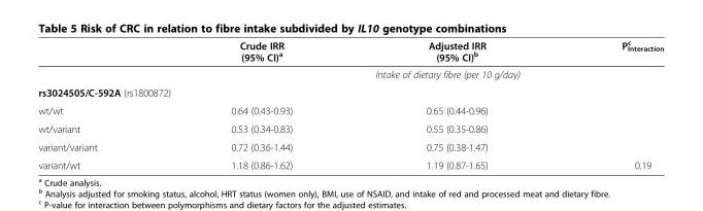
<table><thead><tr><td></td><td>Crude IRR (95% CI)<sup>a</sup></td><td>Adjusted IRR (95% CI)<sup>b</sup></td><td>P<sub>Interaction</sub> <sup>c</sup></td></tr></thead><tbody><tr><td></td><td colspan="3">Intake of dietary fibre (per 10 g/day)</td></tr><tr><td colspan="4">rs3024505/C-592A (rs1800872)</td></tr><tr><td>wt/wt</td><td>0.64 (0.43-0.93)</td><td>0.65 (0.44-0.96)</td><td></td></tr><tr><td>wt/variant</td><td>0.53 (0.34-0.83)</td><td>0.55 (0.35-0.86)</td><td></td></tr><tr><td>variant/variant</td><td>0.72 (0.36-1.44)</td><td>0.75 (0.38-1.47)</td><td></td></tr><tr><td>variant/wt</td><td>1.18 (0.86-1.62)</td><td>1.19 (0.87-1.65)</td><td>0.19</td></tr></tbody></table>